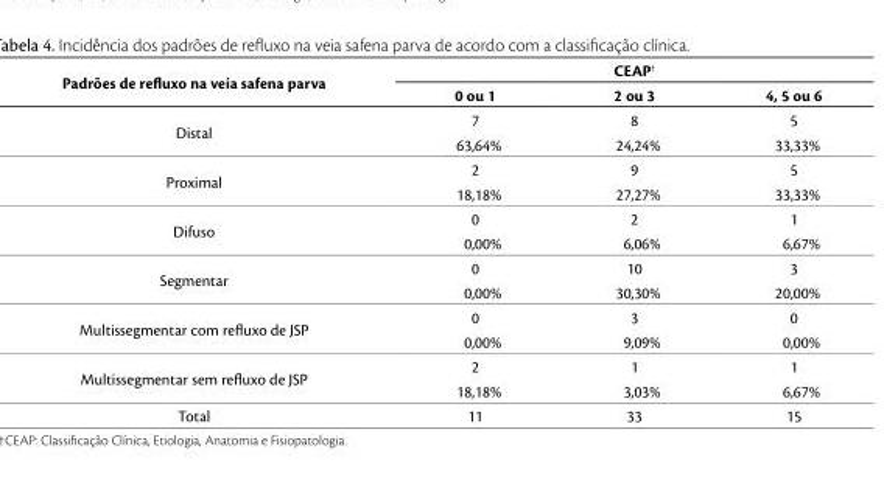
<table><thead><tr><td rowspan="2">Padrões de refluxo na veia safena parva</td><td colspan="3">CEAP†</td></tr><tr><td>0 ou 1</td><td>2 ou 3</td><td>4, 5 ou 6</td></tr></thead><tbody><tr><td rowspan="2">Distal</td><td>7</td><td>8</td><td>5</td></tr><tr><td>63,64%</td><td>24,24%</td><td>33,33%</td></tr><tr><td rowspan="2">Proximal</td><td>2</td><td>9</td><td>5</td></tr><tr><td>18,18%</td><td>27,27%</td><td>33,33%</td></tr><tr><td rowspan="2">Difuso</td><td>0</td><td>2</td><td>1</td></tr><tr><td>0,00%</td><td>6,06%</td><td>6,67%</td></tr><tr><td rowspan="2">Segmentar</td><td>0</td><td>10</td><td>3</td></tr><tr><td>0,00%</td><td>30,30%</td><td>20,00%</td></tr><tr><td rowspan="2">Multissegmentar com refluxo de JSP</td><td>0</td><td>3</td><td>0</td></tr><tr><td>0,00%</td><td>9,09%</td><td>0,00%</td></tr><tr><td rowspan="2">Multissegmentar sem refluxo de JSP</td><td>2</td><td>1</td><td>1</td></tr><tr><td>18,18%</td><td>3,03%</td><td>6,67%</td></tr><tr><td>Total</td><td>11</td><td>33</td><td>15</td></tr></tbody></table>